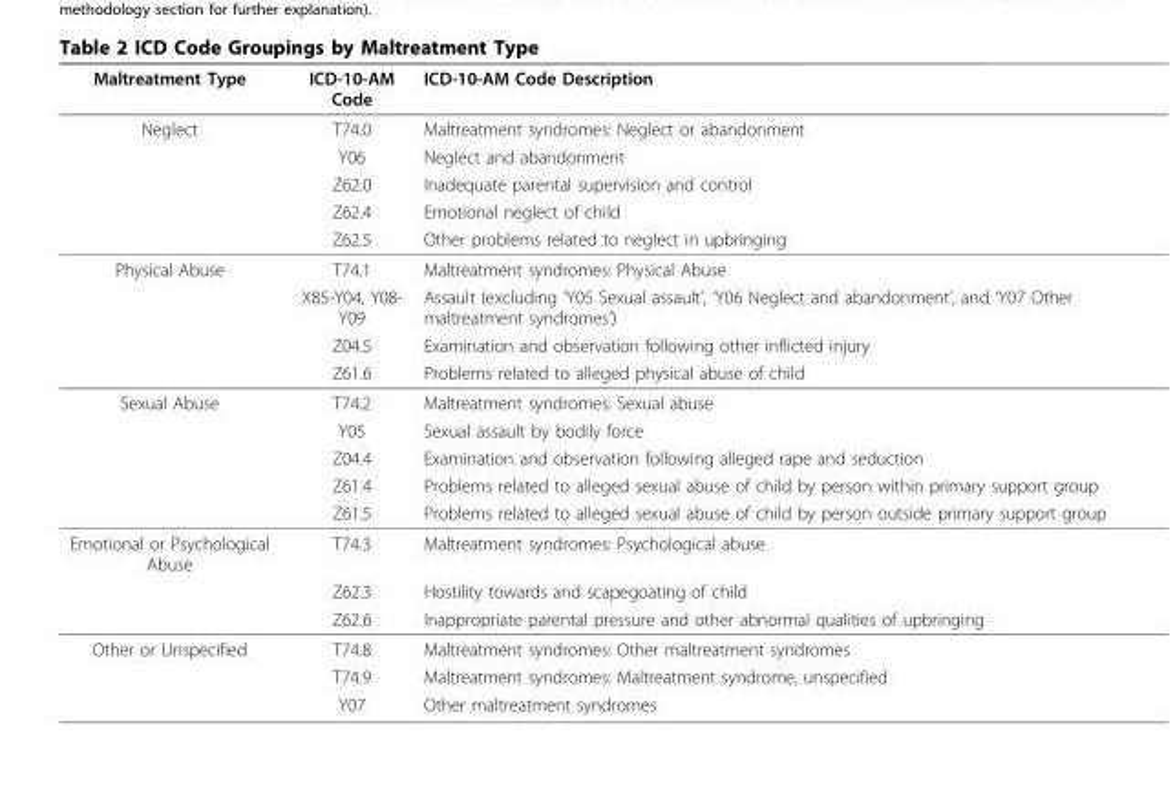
<table><thead><tr><td>Maltreatment Type</td><td>ICD-10-AM Code</td><td>ICD-10-AM Code Description</td></tr></thead><tbody><tr><td rowspan="5">Neglect</td><td>T74.0</td><td>Maltreatment syndromes: Neglect or abandonment</td></tr><tr><td>Y06</td><td>Neglect and abandonment</td></tr><tr><td>Z62.0</td><td>Inadequate parental supervision and control</td></tr><tr><td>Z62.4</td><td>Emotional neglect of child</td></tr><tr><td>Z62.5</td><td>Other problems related to neglect in upbringing</td></tr><tr><td rowspan="4">Physical Abuse</td><td>T74.1</td><td>Maltreatment syndromes: Physical Abuse</td></tr><tr><td>X85-Y04, Y08- Y09</td><td>Assault (excluding ‘Y05 Sexual assault’, ‘Y06 Neglect and abandonment’, and ‘Y07 Other maltreatment syndromes’)</td></tr><tr><td>Z04.5</td><td>Examination and observation following other inflicted injury</td></tr><tr><td>Z61.6</td><td>Problems related to alleged physical abuse of child</td></tr><tr><td rowspan="5">Sexual Abuse</td><td>T74.2</td><td>Maltreatment syndromes: Sexual abuse</td></tr><tr><td>Y05</td><td>Sexual assault by bodily force</td></tr><tr><td>Z04.4</td><td>Examination and observation following alleged rape and seduction</td></tr><tr><td>Z61.4</td><td>Problems related to alleged sexual abuse of child by person within primary support group</td></tr><tr><td>Z61.5</td><td>Problems related to alleged sexual abuse of child by person outside primary support group</td></tr><tr><td rowspan="3">Emotional or Psychological Abuse</td><td>T74.3</td><td>Maltreatment syndromes: Psychological abuse</td></tr><tr><td>Z62.3</td><td>Hostility towards and scapegoating of child</td></tr><tr><td>Z62.6</td><td>Inappropriate parental pressure and other abnormal qualities of upbringing</td></tr><tr><td rowspan="3">Other or Unspecified</td><td>T74.8</td><td>Maltreatment syndromes: Other maltreatment syndromes</td></tr><tr><td>T74.9</td><td>Maltreatment syndromes: Maltreatment syndrome, unspecified</td></tr><tr><td>Y07</td><td>Other maltreatment syndromes</td></tr></tbody></table>